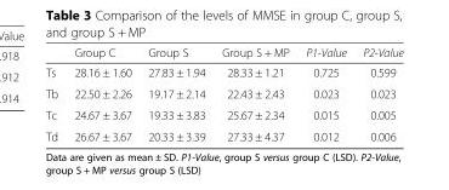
<table><thead><tr><td></td><td>Group C</td><td>Group S</td><td>Group S + MP</td><td>P1-Value</td><td>P2-Value</td></tr></thead><tbody><tr><td>Ts</td><td>28.16 ± 1.60</td><td>27.83 ± 1.94</td><td>28.33 ± 1.21</td><td>0.725</td><td>0.599</td></tr><tr><td>Tb</td><td>22.50 ± 2.26</td><td>19.17 ± 2.14</td><td>22.43 ± 2.43</td><td>0.023</td><td>0.023</td></tr><tr><td>Tc</td><td>24.67 ± 3.67</td><td>19.33 ± 3.83</td><td>25.67 ± 2.34</td><td>0.015</td><td>0.005</td></tr><tr><td>Td</td><td>26.67 ± 3.67</td><td>20.33 ± 3.39</td><td>27.33 ± 4.37</td><td>0.012</td><td>0.006</td></tr></tbody></table>